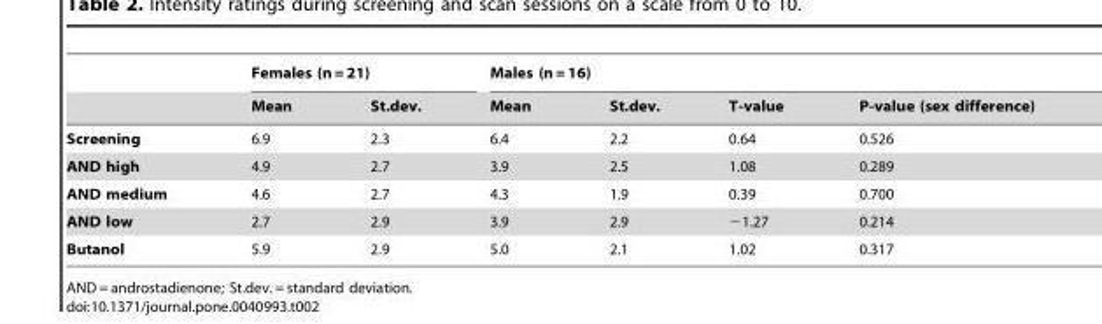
<table><thead><tr><td rowspan="2"></td><td colspan="2">Females (n = 21)</td><td colspan="4">Males (n = 16)</td></tr><tr><td>Mean</td><td>St.dev.</td><td>Mean</td><td>St.dev.</td><td>T-value</td><td>P-value (sex difference)</td></tr></thead><tbody><tr><td>Screening</td><td>6.9</td><td>2.3</td><td>6.4</td><td>2.2</td><td>0.64</td><td>0.526</td></tr><tr><td>AND high</td><td>4.9</td><td>2.7</td><td>3.9</td><td>2.5</td><td>1.08</td><td>0.289</td></tr><tr><td>AND medium</td><td>4.6</td><td>2.7</td><td>4.3</td><td>1.9</td><td>0.39</td><td>0.700</td></tr><tr><td>AND low</td><td>2.7</td><td>2.9</td><td>3.9</td><td>2.9</td><td>−1.27</td><td>0.214</td></tr><tr><td>Butanol</td><td>5.9</td><td>2.9</td><td>5.0</td><td>2.1</td><td>1.02</td><td>0.317</td></tr></tbody></table>